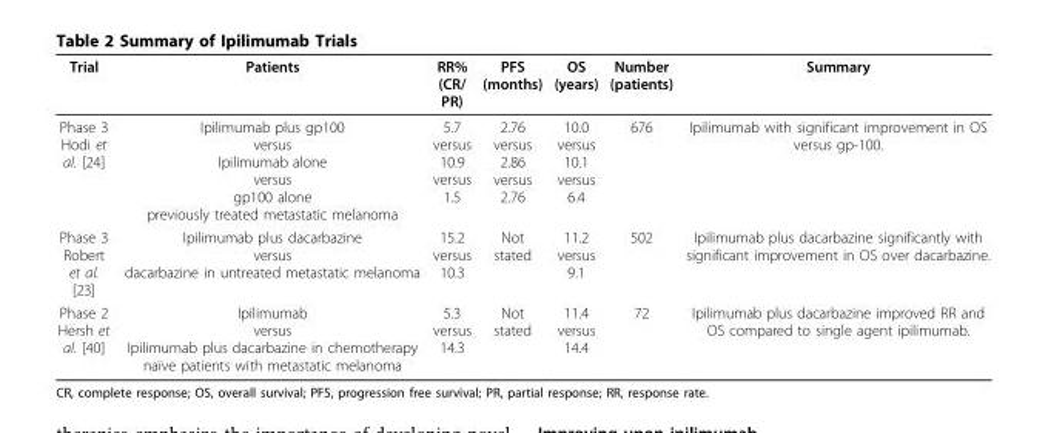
<table><thead><tr><td>Trial</td><td>Patients</td><td>RR% (CR/ PR)</td><td>PFS (months)</td><td>OS (years)</td><td>Number (patients)</td><td>Summary</td></tr></thead><tbody><tr><td>Phase 3 Hodi et al. [24]</td><td>Ipilimumab plus gp100 versus Ipilimumab alone versus gp100 alone previously treated metastatic melanoma</td><td>5.7 versus 10.9 versus 1.5</td><td>2.76 versus 2.86 versus 2.76</td><td>10.0 versus 10.1 versus 6.4</td><td>676</td><td>Ipilimumab with significant improvement in OS versus gp-100.</td></tr><tr><td>Phase 3 Robert et al. [23]</td><td>Ipilimumab plus dacarbazine versus dacarbazine in untreated metastatic melanoma</td><td>15.2 versus 10.3</td><td>Not stated</td><td>11.2 versus 9.1</td><td>502</td><td>Ipilimumab plus dacarbazine significantly with significant improvement in OS over dacarbazine.</td></tr><tr><td>Phase 2 Hersh et al. [40]</td><td>Ipilimumab versus Ipilimumab plus dacarbazine in chemotherapy naïve patients with metastatic melanoma</td><td>5.3 versus 14.3</td><td>Not stated</td><td>11.4 versus 14.4</td><td>72</td><td>Ipilimumab plus dacarbazine improved RR and OS compared to single agent ipilimumab.</td></tr></tbody></table>